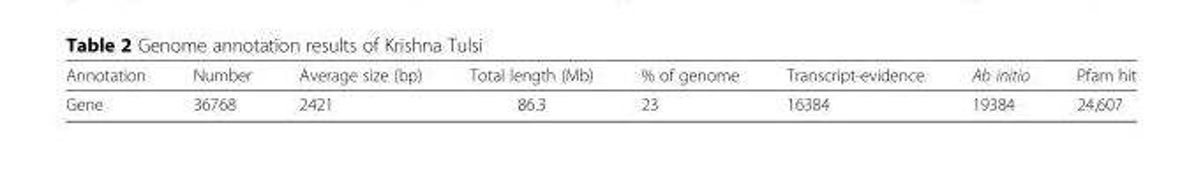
<table><thead><tr><td>Annotation</td><td>Number</td><td>Average size (bp)</td><td>Total length (Mb)</td><td>% of genome</td><td>Transcript-evidence</td><td>Ab initio</td><td>Pfam hit</td></tr></thead><tbody><tr><td>Gene</td><td>36768</td><td>2421</td><td>86.3</td><td>23</td><td>16384</td><td>19384</td><td>24,607</td></tr></tbody></table>